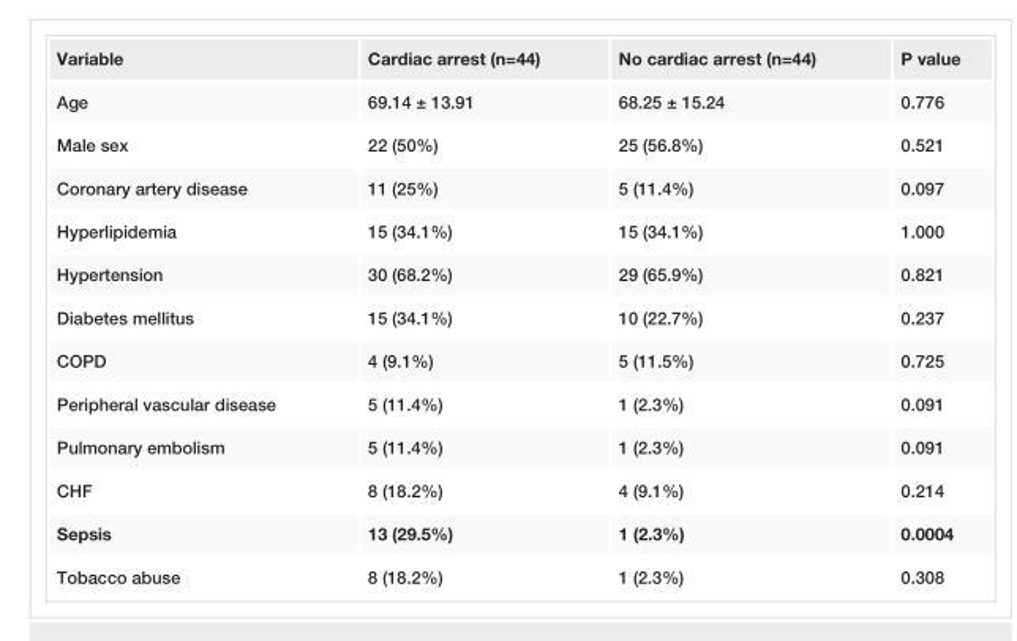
<table><tbody><tr><td>Variable</td><td>Cardiac arrest (n=44)</td><td>No cardiac arrest (n=44)</td><td>P value</td></tr><tr><td>Age</td><td>69.14 ± 13.91</td><td>68.25 ± 15.24</td><td>0.776</td></tr><tr><td>Male sex</td><td>22 (50%)</td><td>25 (56.8%)</td><td>0.521</td></tr><tr><td>Coronary artery disease</td><td>11 (25%)</td><td>5 (11.4%)</td><td>0.097</td></tr><tr><td>Hyperlipidemia</td><td>15 (34.1%)</td><td>15 (34.1%)</td><td>1.000</td></tr><tr><td>Hypertension</td><td>30 (68.2%)</td><td>29 (65.9%)</td><td>0.821</td></tr><tr><td>Diabetes mellitus</td><td>15 (34.1%)</td><td>10 (22.7%)</td><td>0.237</td></tr><tr><td>COPD</td><td>4 (9.1%)</td><td>5 (11.5%)</td><td>0.725</td></tr><tr><td>Peripheral vascular disease</td><td>5 (11.4%)</td><td>1 (2.3%)</td><td>0.091</td></tr><tr><td>Pulmonary embolism</td><td>5 (11.4%)</td><td>1 (2.3%)</td><td>0.091</td></tr><tr><td>CHF</td><td>8 (18.2%)</td><td>4 (9.1%)</td><td>0.214</td></tr><tr><td>Sepsis</td><td>13 (29.5%)</td><td>1 (2.3%)</td><td>0.0004</td></tr><tr><td>Tobacco abuse</td><td>8 (18.2%)</td><td>1 (2.3%)</td><td>0.308</td></tr></tbody></table>